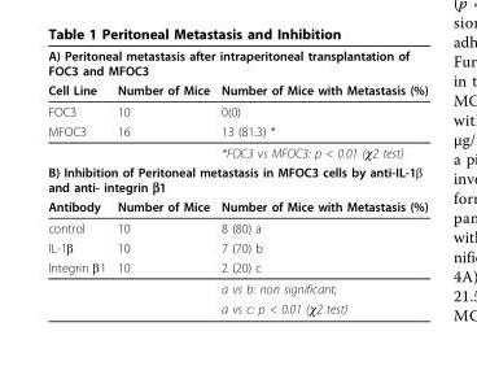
<table><thead><tr><td colspan="3">A) Peritoneal metastasis after intraperitoneal transplantation of FOC3 and MFOC3</td></tr><tr><td>Cell Line</td><td>Number of Mice</td><td>Number of Mice with Metastasis (%)</td></tr></thead><tbody><tr><td>FOC3</td><td>10</td><td>0(0)</td></tr><tr><td rowspan="2">MFOC3</td><td>16</td><td>13 (81.3) *</td></tr><tr><td></td><td>*FOC3 vs MFOC3: p &lt; 0.01 (χ2 test)</td></tr><tr><td colspan="3">B) Inhibition of Peritoneal metastasis in MFOC3 cells by anti-IL-1β and anti- integrin β1</td></tr><tr><td>Antibody</td><td>Number of Mice</td><td>Number of Mice with Metastasis (%)</td></tr><tr><td>control</td><td>10</td><td>8 (80) a</td></tr><tr><td>IL-1β</td><td>10</td><td>7 (70) b</td></tr><tr><td rowspan="3">Integrin β1</td><td>10</td><td>2 (20) c</td></tr><tr><td></td><td>a vs b: non significant;</td></tr><tr><td></td><td>a vs c: p &lt; 0.01 (χ2 test)</td></tr></tbody></table>